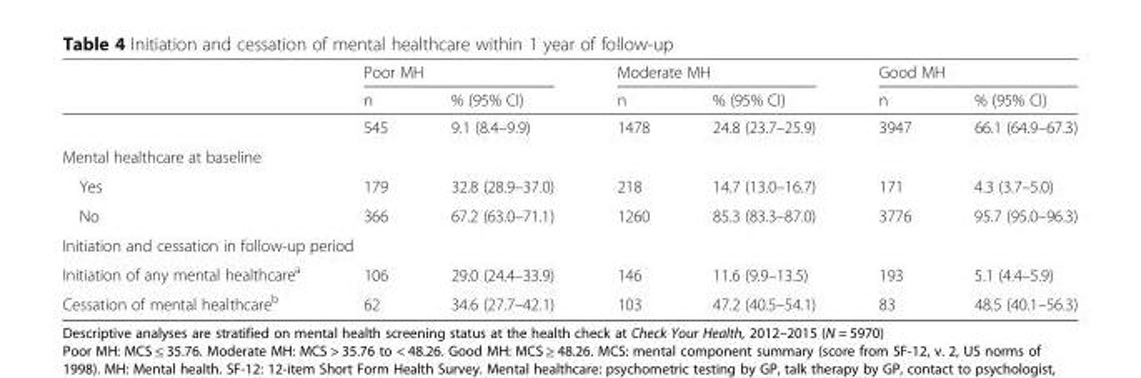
<table><thead><tr><td rowspan="2"></td><td colspan="2">Poor MH</td><td colspan="2">Moderate MH</td><td colspan="2">Good MH</td></tr><tr><td>n</td><td>% (95% CI)</td><td>n</td><td>% (95% CI)</td><td>n</td><td>% (95% CI)</td></tr></thead><tbody><tr><td></td><td>545</td><td>9.1 (8.4–9.9)</td><td>1478</td><td>24.8 (23.7–25.9)</td><td>3947</td><td>66.1 (64.9–67.3)</td></tr><tr><td colspan="7">Mental healthcare at baseline</td></tr><tr><td>Yes</td><td>179</td><td>32.8 (28.9–37.0)</td><td>218</td><td>14.7 (13.0–16.7)</td><td>171</td><td>4.3 (3.7–5.0)</td></tr><tr><td>No</td><td>366</td><td>67.2 (63.0–71.1)</td><td>1260</td><td>85.3 (83.3–87.0)</td><td>3776</td><td>95.7 (95.0–96.3)</td></tr><tr><td colspan="7">Initiation and cessation in follow-up period</td></tr><tr><td>Initiation of any mental healthcare<sup>a</sup></td><td>106</td><td>29.0 (24.4–33.9)</td><td>146</td><td>11.6 (9.9–13.5)</td><td>193</td><td>5.1 (4.4–5.9)</td></tr><tr><td>Cessation of mental healthcare<sup>b</sup></td><td>62</td><td>34.6 (27.7–42.1)</td><td>103</td><td>47.2 (40.5–54.1)</td><td>83</td><td>48.5 (40.1–56.3)</td></tr></tbody></table>